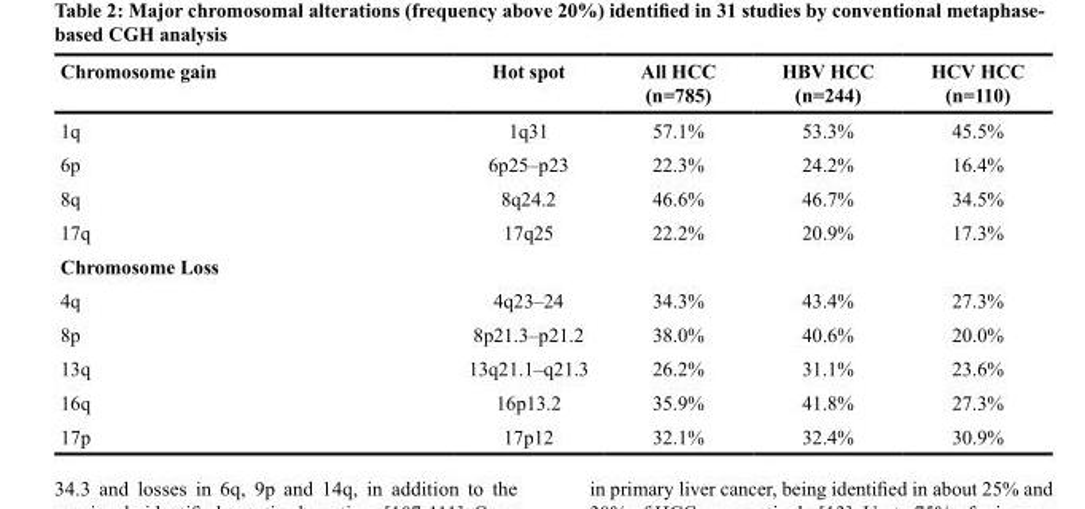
<table><thead><tr><td>Chromosome gain</td><td>Hot spot</td><td>All HCC (n=785)</td><td>HBV HCC (n=244)</td><td>HCV HCC (n=110)</td></tr></thead><tbody><tr><td>1q</td><td>1q31</td><td>57.1%</td><td>53.3%</td><td>45.5%</td></tr><tr><td>6p</td><td>6p25–p23</td><td>22.3%</td><td>24.2%</td><td>16.4%</td></tr><tr><td>8q</td><td>8q24.2</td><td>46.6%</td><td>46.7%</td><td>34.5%</td></tr><tr><td>17q</td><td>17q25</td><td>22.2%</td><td>20.9%</td><td>17.3%</td></tr><tr><td colspan="5">Chromosome Loss</td></tr><tr><td>4q</td><td>4q23–24</td><td>34.3%</td><td>43.4%</td><td>27.3%</td></tr><tr><td>8p</td><td>8p21.3–p21.2</td><td>38.0%</td><td>40.6%</td><td>20.0%</td></tr><tr><td>13q</td><td>13q21.1–q21.3</td><td>26.2%</td><td>31.1%</td><td>23.6%</td></tr><tr><td>16q</td><td>16p13.2</td><td>35.9%</td><td>41.8%</td><td>27.3%</td></tr><tr><td>17p</td><td>17p12</td><td>32.1%</td><td>32.4%</td><td>30.9%</td></tr></tbody></table>